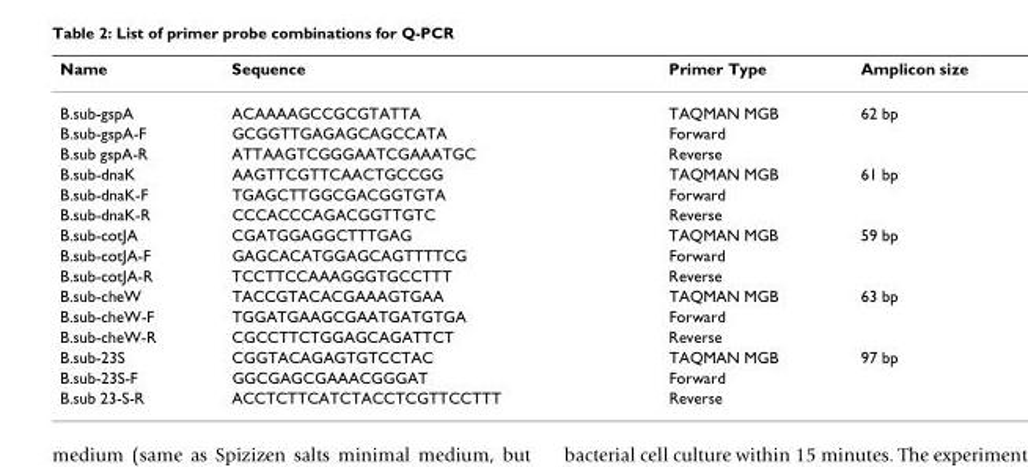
<table><thead><tr><td>Name</td><td>Sequence</td><td>Primer Type</td><td>Amplicon size</td></tr></thead><tbody><tr><td>B.sub-gspA</td><td>ACAAAAGCCGCGTATTA</td><td>TAQMAN MGB</td><td>62 bp</td></tr><tr><td>B.sub-gspA-F</td><td>GCGGTTGAGAGCAGCCATA</td><td>Forward</td><td></td></tr><tr><td>B.sub gspA-R</td><td>ATTAAGTCGGGAATCGAAATGC</td><td>Reverse</td><td></td></tr><tr><td>B.sub-dnaK</td><td>AAGTTCGTTCAACTGCCGG</td><td>TAQMAN MGB</td><td>61 bp</td></tr><tr><td>B.sub-dnaK-F</td><td>TGAGCTTGGCGACGGTGTA</td><td>Forward</td><td></td></tr><tr><td>B.sub-dnaK-R</td><td>CCCACCCAGACGGTTGTC</td><td>Reverse</td><td></td></tr><tr><td>B.sub-cotJA</td><td>CGATGGAGGCTTTGAG</td><td>TAQMAN MGB</td><td>59 bp</td></tr><tr><td>B.sub-cotJA-F</td><td>GAGCACATGGAGCAGTTTTCG</td><td>Forward</td><td></td></tr><tr><td>B.sub-cotJA-R</td><td>TCCTTCCAAAGGGTGCCTTT</td><td>Reverse</td><td></td></tr><tr><td>B.sub-cheW</td><td>TACCGTACACGAAAGTGAA</td><td>TAQMAN MGB</td><td>63 bp</td></tr><tr><td>B.sub-cheW-F</td><td>TGGATGAAGCGAATGATGTGA</td><td>Forward</td><td></td></tr><tr><td>B.sub-cheW-R</td><td>CGCCTTCTGGAGCAGATTCT</td><td>Reverse</td><td></td></tr><tr><td>B.sub-23S</td><td>CGGTACAGAGTGTCCTAC</td><td>TAQMAN MGB</td><td>97 bp</td></tr><tr><td>B.sub-23S-F</td><td>GGCGAGCGAAACGGGAT</td><td>Forward</td><td></td></tr><tr><td>B.sub 23-S-R</td><td>ACCTCTTCATCTACCTCGTTCCTTT</td><td>Reverse</td><td></td></tr></tbody></table>